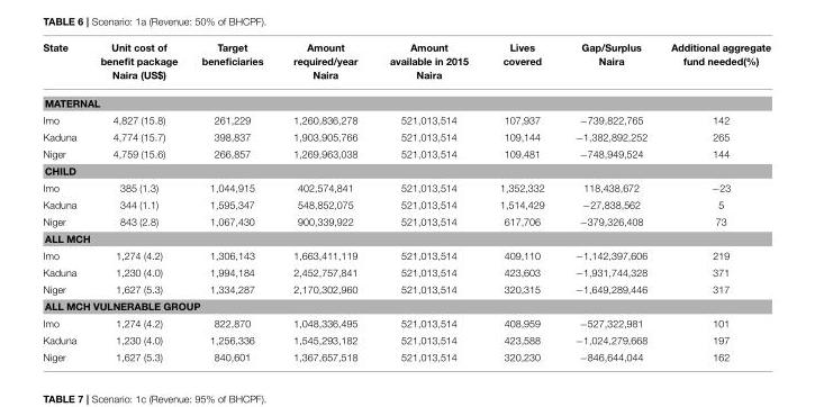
<table><thead><tr><td>State</td><td>Unit cost of benefit package Naira (US$)</td><td>Target beneficiaries</td><td>Amount required/year Naira</td><td>Amount available in 2015 Naira</td><td>Lives covered</td><td>Gap/Surplus Naira</td><td>Additional aggregate fund needed(%)</td></tr></thead><tbody><tr><td colspan="8">MATERNAL</td></tr><tr><td>Imo</td><td>4,827 (15.8)</td><td>261,229</td><td>1,260,836,278</td><td>521,013,514</td><td>107,937</td><td>−739,822,765</td><td>142</td></tr><tr><td>Kaduna</td><td>4,774 (15.7)</td><td>398,837</td><td>1,903,905,766</td><td>521,013,514</td><td>109,144</td><td>−1,382,892,252</td><td>265</td></tr><tr><td>Niger</td><td>4,759 (15.6)</td><td>266,857</td><td>1,269,963,038</td><td>521,013,514</td><td>109,481</td><td>−748,949,524</td><td>144</td></tr><tr><td colspan="8">CHILD</td></tr><tr><td>Imo</td><td>385 (1.3)</td><td>1,044,915</td><td>402,574,841</td><td>521,013,514</td><td>1,352,332</td><td>118,438,672</td><td>−23</td></tr><tr><td>Kaduna</td><td>344 (1.1)</td><td>1,595,347</td><td>548,852,075</td><td>521,013,514</td><td>1,514,429</td><td>−27,838,562</td><td>5</td></tr><tr><td>Niger</td><td>843 (2.8)</td><td>1,067,430</td><td>900,339,922</td><td>521,013,514</td><td>617,706</td><td>−379,326,408</td><td>73</td></tr><tr><td colspan="8">ALL MCH</td></tr><tr><td>Imo</td><td>1,274 (4.2)</td><td>1,306,143</td><td>1,663,411,119</td><td>521,013,514</td><td>409,110</td><td>−1,142,397,606</td><td>219</td></tr><tr><td>Kaduna</td><td>1,230 (4.0)</td><td>1,994,184</td><td>2,452,757,841</td><td>521,013,514</td><td>423,603</td><td>−1,931,744,328</td><td>371</td></tr><tr><td>Niger</td><td>1,627 (5.3)</td><td>1,334,287</td><td>2,170,302,960</td><td>521,013,514</td><td>320,315</td><td>−1,649,289,446</td><td>317</td></tr><tr><td colspan="8">ALL MCH VULNERABLE GROUP</td></tr><tr><td>Imo</td><td>1,274 (4.2)</td><td>822,870</td><td>1,048,336,495</td><td>521,013,514</td><td>408,959</td><td>−527,322,981</td><td>101</td></tr><tr><td>Kaduna</td><td>1,230 (4.0)</td><td>1,256,336</td><td>1,545,293,182</td><td>521,013,514</td><td>423,588</td><td>−1,024,279,668</td><td>197</td></tr><tr><td>Niger</td><td>1,627 (5.3)</td><td>840,601</td><td>1,367,657,518</td><td>521,013,514</td><td>320,230</td><td>−846,644,044</td><td>162</td></tr></tbody></table>